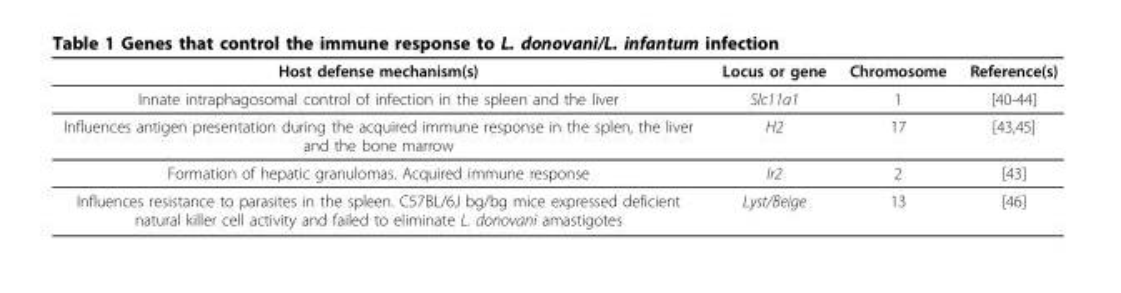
<table><thead><tr><td>Host defense mechanism(s)</td><td>Locus or gene</td><td>Chromosome</td><td>Reference(s)</td></tr></thead><tbody><tr><td>Innate intraphagosomal control of infection in the spleen and the liver</td><td>Slc11a1</td><td>1</td><td>[40-44]</td></tr><tr><td>Influences antigen presentation during the acquired immune response in the splen, the liver and the bone marrow</td><td>H2</td><td>17</td><td>[43,45]</td></tr><tr><td>Formation of hepatic granulomas. Acquired immune response</td><td>Ir2</td><td>2</td><td>[43]</td></tr><tr><td>Influences resistance to parasites in the spleen. C57BL/6J bg/bg mice expressed deficient natural killer cell activity and failed to eliminate L. donovani amastigotes</td><td>Lyst/Beige</td><td>13</td><td>[46]</td></tr></tbody></table>